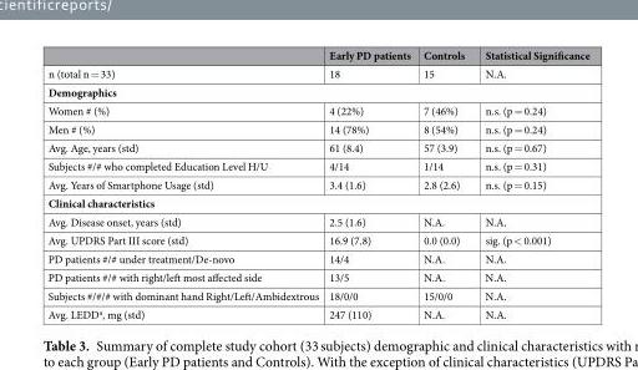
<table><thead><tr><td></td><td>Early PD patients</td><td>Controls</td><td>Statistical Significance</td></tr></thead><tbody><tr><td>n (total n = 33)</td><td>18</td><td>15</td><td>N.A.</td></tr><tr><td colspan="4">Demographics</td></tr><tr><td>Women # (%)</td><td>4 (22%)</td><td>7 (46%)</td><td>n.s. (p = 0.24)</td></tr><tr><td>Men # (%)</td><td>14 (78%)</td><td>8 (54%)</td><td>n.s. (p = 0.24)</td></tr><tr><td>Avg. Age, years (std)</td><td>61 (8.4)</td><td>57 (3.9)</td><td>n.s. (p = 0.67)</td></tr><tr><td>Subjects #/# who completed Education Level H/U</td><td>4/14</td><td>1/14</td><td>n.s. (p = 0.31)</td></tr><tr><td>Avg. Years of Smartphone Usage (std)</td><td>3.4 (1.6)</td><td>2.8 (2.6)</td><td>n.s. (p = 0.15)</td></tr><tr><td colspan="4">Clinical characteristics</td></tr><tr><td>Avg. Disease onset, years (std)</td><td>2.5 (1.6)</td><td>N.A.</td><td>N.A.</td></tr><tr><td>Avg. UPDRS Part III score (std)</td><td>16.9 (7.8)</td><td>0.0 (0.0)</td><td>sig. (p &lt; 0.001)</td></tr><tr><td>PD patients #/# under treatment/De-novo</td><td>14/4</td><td>N.A.</td><td>N.A.</td></tr><tr><td>PD patients #/# with right/left most affected side</td><td>13/5</td><td>N.A.</td><td>N.A.</td></tr><tr><td>Subjects #/#/# with dominant hand Right/Left/Ambidextrous</td><td>18/0/0</td><td>15/0/0</td><td>N.A.</td></tr><tr><td>Avg. LEDD<sup>a</sup>, mg (std)</td><td>247 (110)</td><td>N.A.</td><td>N.A.</td></tr></tbody></table>